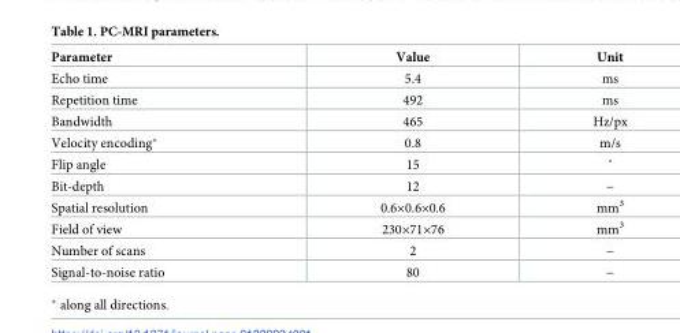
<table><thead><tr><td>Parameter</td><td>Value</td><td>Unit</td></tr></thead><tbody><tr><td>Echo time</td><td>5.4</td><td>ms</td></tr><tr><td>Repetition time</td><td>492</td><td>ms</td></tr><tr><td>Bandwidth</td><td>465</td><td>Hz/px</td></tr><tr><td>Velocity encoding*</td><td>0.8</td><td>m/s</td></tr><tr><td>Flip angle</td><td>15</td><td>˚</td></tr><tr><td>Bit-depth</td><td>12</td><td>−</td></tr><tr><td>Spatial resolution</td><td>0.6×0.6×0.6</td><td>mm<sup>3</sup></td></tr><tr><td>Field of view</td><td>230×71×76</td><td>mm<sup>3</sup></td></tr><tr><td>Number of scans</td><td>2</td><td>−</td></tr><tr><td>Signal-to-noise ratio</td><td>80</td><td>−</td></tr></tbody></table>